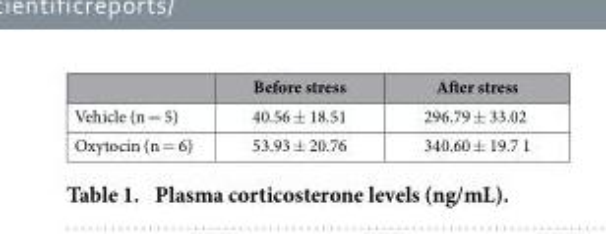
<table><thead><tr><td></td><td>Before stress</td><td>After stress</td></tr></thead><tbody><tr><td>Vehicle (n = 5)</td><td>40.56 ± 18.51</td><td>296.79 ± 33.02</td></tr><tr><td>Oxytocin (n = 6)</td><td>53.93 ± 20.76</td><td>340.60 ± 19.7 1</td></tr></tbody></table>